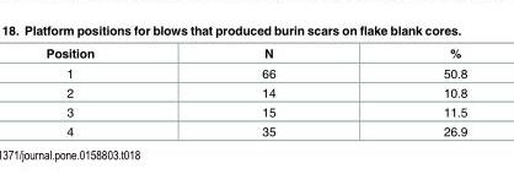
<table><thead><tr><td>Position</td><td>N</td><td>%</td></tr></thead><tbody><tr><td>1</td><td>66</td><td>50.8</td></tr><tr><td>2</td><td>14</td><td>10.8</td></tr><tr><td>3</td><td>15</td><td>11.5</td></tr><tr><td>4</td><td>35</td><td>26.9</td></tr></tbody></table>